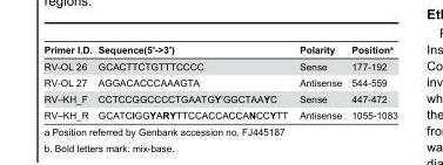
<table><thead><tr><td>Primer I.D.</td><td>Sequence(5&#x27;-&gt;3&#x27;)</td><td>Polarity</td><td>Position<sup>a</sup></td></tr></thead><tbody><tr><td>RV-OL 26</td><td>GCACTTCTGTTTCCCC</td><td>Sense</td><td>177-192</td></tr><tr><td>RV-OL 27</td><td>AGGACACCCAAAGTA</td><td>Antisense</td><td>544-559</td></tr><tr><td>RV–KH_F</td><td>CCTCCGGCCCCTGAATGY <sup>b</sup>GGCTAAYC</td><td>Sense</td><td>447-472</td></tr><tr><td>RV–KH_R</td><td>GCATCIGGYARYTTCCACCACCANCCYTT</td><td>Antisense</td><td>1055-1083</td></tr></tbody></table>